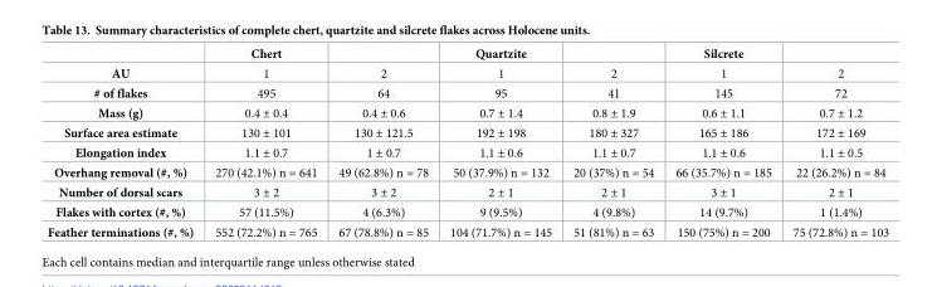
<table><thead><tr><td></td><td>Chert</td><td></td><td>Quartzite</td><td></td><td>Silcrete</td><td></td></tr></thead><tbody><tr><td>AU</td><td>1</td><td>2</td><td>1</td><td>2</td><td>1</td><td>2</td></tr><tr><td># of flakes</td><td>495</td><td>64</td><td>95</td><td>41</td><td>145</td><td>72</td></tr><tr><td>Mass (g)</td><td>0.4 ± 0.4</td><td>0.4 ± 0.6</td><td>0.7 ± 1.4</td><td>0.8 ± 1.9</td><td>0.6 ± 1.1</td><td>0.7 ± 1.2</td></tr><tr><td>Surface area estimate</td><td>130 ± 101</td><td>130 ± 121.5</td><td>192 ± 198</td><td>180 ± 327</td><td>165 ± 186</td><td>172 ± 169</td></tr><tr><td>Elongation index</td><td>1.1 ± 0.7</td><td>1 ± 0.7</td><td>1.1 ± 0.6</td><td>1.1 ± 0.7</td><td>1.1 ± 0.6</td><td>1.1 ± 0.5</td></tr><tr><td>Overhang removal (#, %)</td><td>270 (42.1%) n = 641</td><td>49 (62.8%) n = 78</td><td>50 (37.9%) n = 132</td><td>20 (37%) n = 54</td><td>66 (35.7%) n = 185</td><td>22 (26.2%) n = 84</td></tr><tr><td>Number of dorsal scars</td><td>3 ± 2</td><td>3 ± 2</td><td>2 ± 1</td><td>2 ± 1</td><td>3 ± 1</td><td>2 ± 1</td></tr><tr><td>Flakes with cortex (#, %)</td><td>57 (11.5%)</td><td>4 (6.3%)</td><td>9 (9.5%)</td><td>4 (9.8%)</td><td>14 (9.7%)</td><td>1 (1.4%)</td></tr><tr><td>Feather terminations (#, %)</td><td>552 (72.2%) n = 765</td><td>67 (78.8%) n = 85</td><td>104 (71.7%) n = 145</td><td>51 (81%) n = 63</td><td>150 (75%) n = 200</td><td>75 (72.8%) n = 103</td></tr></tbody></table>